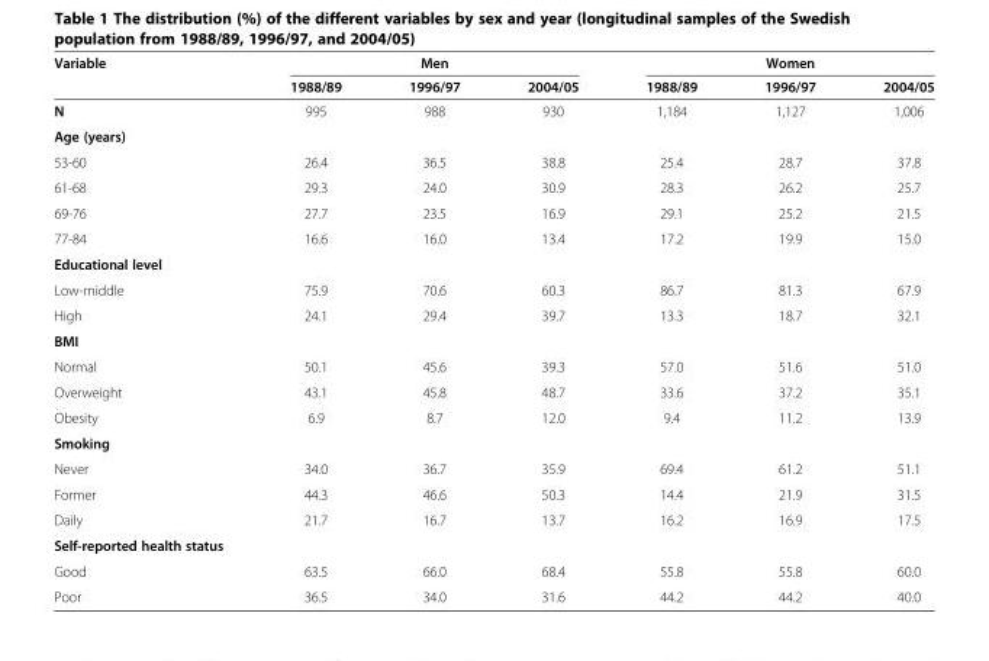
<table><thead><tr><td rowspan="2">Variable</td><td colspan="3">Men</td><td colspan="3">Women</td></tr><tr><td>1988/89</td><td>1996/97</td><td>2004/05</td><td>1988/89</td><td>1996/97</td><td>2004/05</td></tr></thead><tbody><tr><td>N</td><td>995</td><td>988</td><td>930</td><td>1,184</td><td>1,127</td><td>1,006</td></tr><tr><td colspan="7">Age (years)</td></tr><tr><td>53-60</td><td>26.4</td><td>36.5</td><td>38.8</td><td>25.4</td><td>28.7</td><td>37.8</td></tr><tr><td>61-68</td><td>29.3</td><td>24.0</td><td>30.9</td><td>28.3</td><td>26.2</td><td>25.7</td></tr><tr><td>69-76</td><td>27.7</td><td>23.5</td><td>16.9</td><td>29.1</td><td>25.2</td><td>21.5</td></tr><tr><td>77-84</td><td>16.6</td><td>16.0</td><td>13.4</td><td>17.2</td><td>19.9</td><td>15.0</td></tr><tr><td colspan="7">Educational level</td></tr><tr><td>Low-middle</td><td>75.9</td><td>70.6</td><td>60.3</td><td>86.7</td><td>81.3</td><td>67.9</td></tr><tr><td>High</td><td>24.1</td><td>29.4</td><td>39.7</td><td>13.3</td><td>18.7</td><td>32.1</td></tr><tr><td colspan="7">BMI</td></tr><tr><td>Normal</td><td>50.1</td><td>45.6</td><td>39.3</td><td>57.0</td><td>51.6</td><td>51.0</td></tr><tr><td>Overweight</td><td>43.1</td><td>45.8</td><td>48.7</td><td>33.6</td><td>37.2</td><td>35.1</td></tr><tr><td>Obesity</td><td>6.9</td><td>8.7</td><td>12.0</td><td>9.4</td><td>11.2</td><td>13.9</td></tr><tr><td colspan="7">Smoking</td></tr><tr><td>Never</td><td>34.0</td><td>36.7</td><td>35.9</td><td>69.4</td><td>61.2</td><td>51.1</td></tr><tr><td>Former</td><td>44.3</td><td>46.6</td><td>50.3</td><td>14.4</td><td>21.9</td><td>31.5</td></tr><tr><td>Daily</td><td>21.7</td><td>16.7</td><td>13.7</td><td>16.2</td><td>16.9</td><td>17.5</td></tr><tr><td colspan="7">Self-reported health status</td></tr><tr><td>Good</td><td>63.5</td><td>66.0</td><td>68.4</td><td>55.8</td><td>55.8</td><td>60.0</td></tr><tr><td>Poor</td><td>36.5</td><td>34.0</td><td>31.6</td><td>44.2</td><td>44.2</td><td>40.0</td></tr></tbody></table>